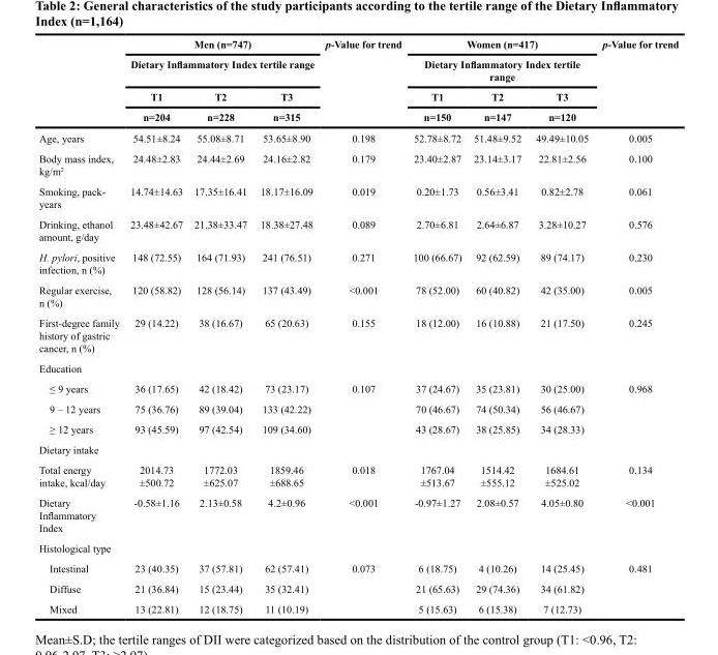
<table><thead><tr><td rowspan="4"></td><td rowspan="2" colspan="3">Men (n=747) Dietary Inflammatory Index tertile range</td><td rowspan="4">p-Value for trend</td><td rowspan="2" colspan="3">Women (n=417) Dietary Inflammatory Index tertile range</td><td rowspan="4">p-Value for trend</td></tr><tr></tr><tr><td rowspan="2">T1 n=204</td><td rowspan="2">T2 n=228</td><td rowspan="2">T3 n=315</td><td rowspan="2">T1 n=150</td><td rowspan="2">T2 n=147</td><td rowspan="2">T3 n=120</td></tr><tr></tr></thead><tbody><tr><td>Age, years</td><td>54.51±8.24</td><td>55.08±8.71</td><td>53.65±8.90</td><td>0.198</td><td>52.78±8.72</td><td>51.48±9.52</td><td>49.49±10.05</td><td>0.005</td></tr><tr><td>Body mass index, kg/m<sup>2</sup></td><td>24.48±2.83</td><td>24.44±2.69</td><td>24.16±2.82</td><td>0.179</td><td>23.40±2.87</td><td>23.14±3.17</td><td>22.81±2.56</td><td>0.100</td></tr><tr><td>Smoking, pack- years</td><td>14.74±14.63</td><td>17.35±16.41</td><td>18.17±16.09</td><td>0.019</td><td>0.20±1.73</td><td>0.56±3.41</td><td>0.82±2.78</td><td>0.061</td></tr><tr><td>Drinking, ethanol amount, g/day</td><td>23.48±42.67</td><td>21.38±33.47</td><td>18.38±27.48</td><td>0.089</td><td>2.70±6.81</td><td>2.64±6.87</td><td>3.28±10.27</td><td>0.576</td></tr><tr><td>H. pylori, positive infection, n (%)</td><td>148 (72.55)</td><td>164 (71.93)</td><td>241 (76.51)</td><td>0.271</td><td>100 (66.67)</td><td>92 (62.59)</td><td>89 (74.17)</td><td>0.230</td></tr><tr><td>Regular exercise, n (%)</td><td>120 (58.82)</td><td>128 (56.14)</td><td>137 (43.49)</td><td>&lt;0.001</td><td>78 (52.00)</td><td>60 (40.82)</td><td>42 (35.00)</td><td>0.005</td></tr><tr><td>First-degree family history of gastric cancer, n (%)</td><td>29 (14.22)</td><td>38 (16.67)</td><td>65 (20.63)</td><td>0.155</td><td>18 (12.00)</td><td>16 (10.88)</td><td>21 (17.50)</td><td>0.245</td></tr><tr><td colspan="9">Education</td></tr><tr><td>≤ 9 years</td><td>36 (17.65)</td><td>42 (18.42)</td><td>73 (23.17)</td><td>0.107</td><td>37 (24.67)</td><td>35 (23.81)</td><td>30 (25.00)</td><td>0.968</td></tr><tr><td>9 – 12 years</td><td>75 (36.76)</td><td>89 (39.04)</td><td>133 (42.22)</td><td></td><td>70 (46.67)</td><td>74 (50.34)</td><td>56 (46.67)</td><td></td></tr><tr><td>≥ 12 years</td><td>93 (45.59)</td><td>97 (42.54)</td><td>109 (34.60)</td><td></td><td>43 (28.67)</td><td>38 (25.85)</td><td>34 (28.33)</td><td></td></tr><tr><td colspan="9">Dietary intake</td></tr><tr><td>Total energy intake, kcal/day</td><td>2014.73 ±500.72</td><td>1772.03 ±625.07</td><td>1859.46 ±688.65</td><td>0.018</td><td>1767.04 ±513.67</td><td>1514.42 ±555.12</td><td>1684.61 ±525.02</td><td>0.134</td></tr><tr><td>Dietary Inflammatory Index</td><td>-0.58±1.16</td><td>2.13±0.58</td><td>4.2±0.96</td><td>&lt;0.001</td><td>-0.97±1.27</td><td>2.08±0.57</td><td>4.05±0.80</td><td>&lt;0.001</td></tr><tr><td colspan="9">Histological type</td></tr><tr><td>Intestinal</td><td>23 (40.35)</td><td>37 (57.81)</td><td>62 (57.41)</td><td>0.073</td><td>6 (18.75)</td><td>4 (10.26)</td><td>14 (25.45)</td><td>0.481</td></tr><tr><td>Diffuse</td><td>21 (36.84)</td><td>15 (23.44)</td><td>35 (32.41)</td><td></td><td>21 (65.63)</td><td>29 (74.36)</td><td>34 (61.82)</td><td></td></tr><tr><td>Mixed</td><td>13 (22.81)</td><td>12 (18.75)</td><td>11 (10.19)</td><td></td><td>5 (15.63)</td><td>6 (15.38)</td><td>7 (12.73)</td><td></td></tr></tbody></table>